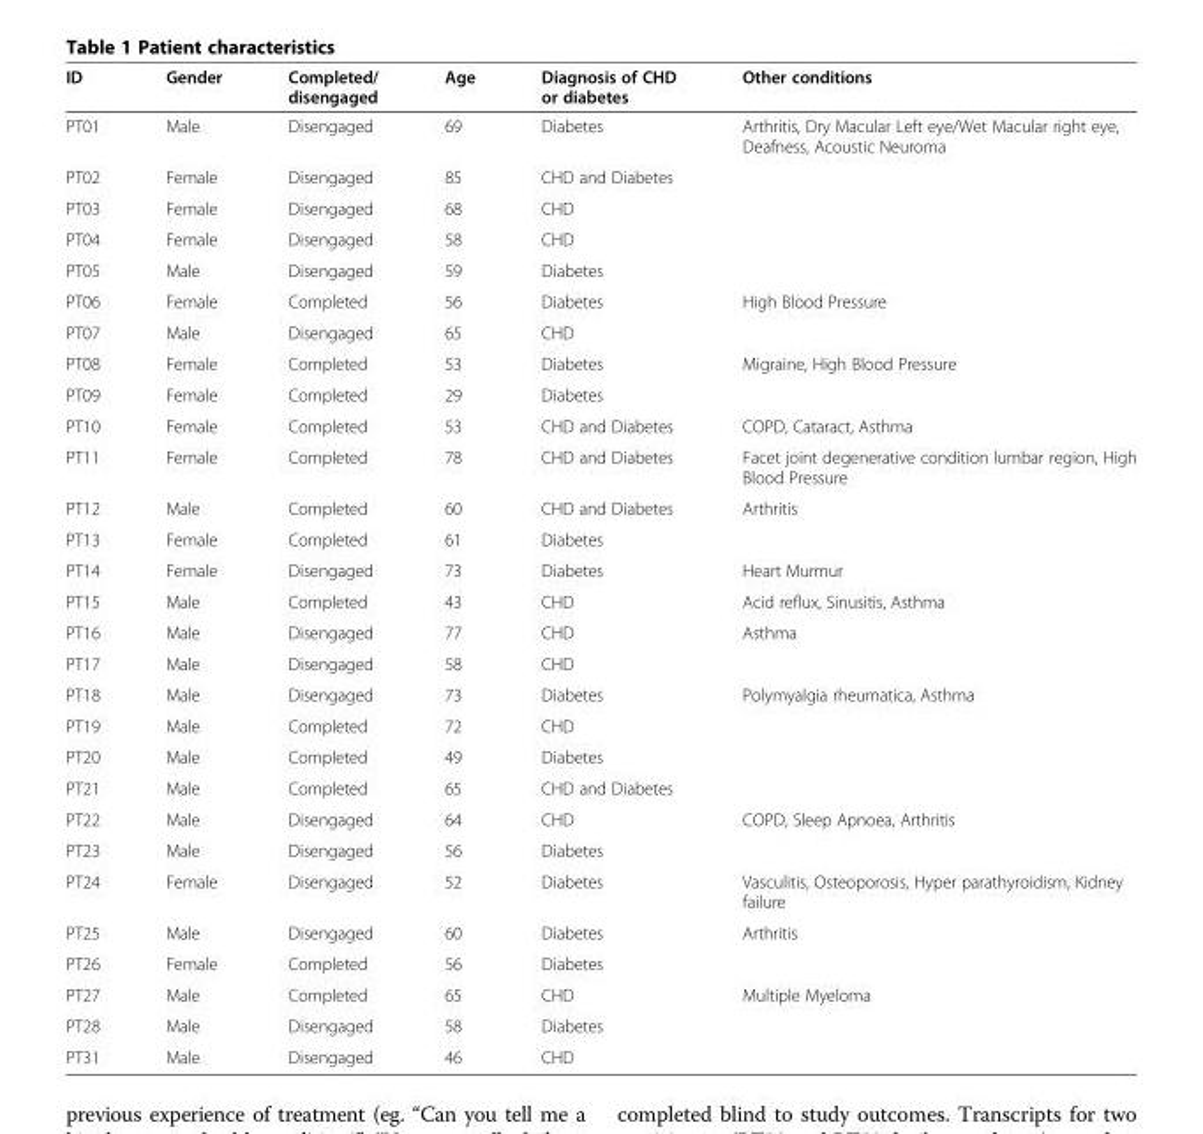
<table><thead><tr><td>ID</td><td>Gender</td><td>Completed/ disengaged</td><td>Age</td><td>Diagnosis of CHD or diabetes</td><td>Other conditions</td></tr></thead><tbody><tr><td>PT01</td><td>Male</td><td>Disengaged</td><td>69</td><td>Diabetes</td><td>Arthritis, Dry Macular Left eye/Wet Macular right eye, Deafness, Acoustic Neuroma</td></tr><tr><td>PT02</td><td>Female</td><td>Disengaged</td><td>85</td><td>CHD and Diabetes</td><td></td></tr><tr><td>PT03</td><td>Female</td><td>Disengaged</td><td>68</td><td>CHD</td><td></td></tr><tr><td>PT04</td><td>Female</td><td>Disengaged</td><td>58</td><td>CHD</td><td></td></tr><tr><td>PT05</td><td>Male</td><td>Disengaged</td><td>59</td><td>Diabetes</td><td></td></tr><tr><td>PT06</td><td>Female</td><td>Completed</td><td>56</td><td>Diabetes</td><td>High Blood Pressure</td></tr><tr><td>PT07</td><td>Male</td><td>Disengaged</td><td>65</td><td>CHD</td><td></td></tr><tr><td>PT08</td><td>Female</td><td>Completed</td><td>53</td><td>Diabetes</td><td>Migraine, High Blood Pressure</td></tr><tr><td>PT09</td><td>Female</td><td>Completed</td><td>29</td><td>Diabetes</td><td></td></tr><tr><td>PT10</td><td>Female</td><td>Completed</td><td>53</td><td>CHD and Diabetes</td><td>COPD, Cataract, Asthma</td></tr><tr><td>PT11</td><td>Female</td><td>Completed</td><td>78</td><td>CHD and Diabetes</td><td>Facet joint degenerative condition lumbar region, High Blood Pressure</td></tr><tr><td>PT12</td><td>Male</td><td>Completed</td><td>60</td><td>CHD and Diabetes</td><td>Arthritis</td></tr><tr><td>PT13</td><td>Female</td><td>Completed</td><td>61</td><td>Diabetes</td><td></td></tr><tr><td>PT14</td><td>Female</td><td>Disengaged</td><td>73</td><td>Diabetes</td><td>Heart Murmur</td></tr><tr><td>PT15</td><td>Male</td><td>Completed</td><td>43</td><td>CHD</td><td>Acid reflux, Sinusitis, Asthma</td></tr><tr><td>PT16</td><td>Male</td><td>Disengaged</td><td>77</td><td>CHD</td><td>Asthma</td></tr><tr><td>PT17</td><td>Male</td><td>Disengaged</td><td>58</td><td>CHD</td><td></td></tr><tr><td>PT18</td><td>Male</td><td>Disengaged</td><td>73</td><td>Diabetes</td><td>Polymyalgia rheumatica, Asthma</td></tr><tr><td>PT19</td><td>Male</td><td>Completed</td><td>72</td><td>CHD</td><td></td></tr><tr><td>PT20</td><td>Male</td><td>Completed</td><td>49</td><td>Diabetes</td><td></td></tr><tr><td>PT21</td><td>Male</td><td>Completed</td><td>65</td><td>CHD and Diabetes</td><td></td></tr><tr><td>PT22</td><td>Male</td><td>Disengaged</td><td>64</td><td>CHD</td><td>COPD, Sleep Apnoea, Arthritis</td></tr><tr><td>PT23</td><td>Male</td><td>Disengaged</td><td>56</td><td>Diabetes</td><td></td></tr><tr><td>PT24</td><td>Female</td><td>Disengaged</td><td>52</td><td>Diabetes</td><td>Vasculitis, Osteoporosis, Hyper parathyroidism, Kidney failure</td></tr><tr><td>PT25</td><td>Male</td><td>Disengaged</td><td>60</td><td>Diabetes</td><td>Arthritis</td></tr><tr><td>PT26</td><td>Female</td><td>Completed</td><td>56</td><td>Diabetes</td><td></td></tr><tr><td>PT27</td><td>Male</td><td>Completed</td><td>65</td><td>CHD</td><td>Multiple Myeloma</td></tr><tr><td>PT28</td><td>Male</td><td>Disengaged</td><td>58</td><td>Diabetes</td><td></td></tr><tr><td>PT31</td><td>Male</td><td>Disengaged</td><td>46</td><td>CHD</td><td></td></tr></tbody></table>